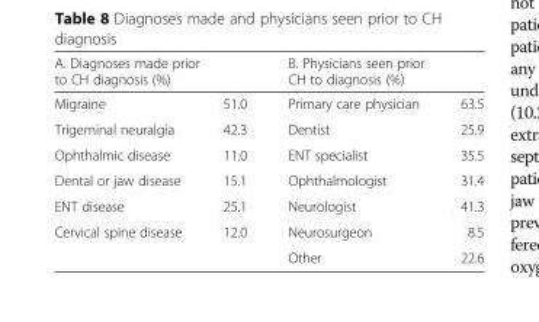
<table><thead><tr><td colspan="2">A. Diagnoses made prior to CH diagnosis (%)</td><td colspan="2">B. Physicians seen prior CH to diagnosis (%)</td></tr><tr><td>Migraine</td><td>51.0</td><td>Primary care physician</td><td>63.5</td></tr></thead><tbody><tr><td>Trigeminal neuralgia</td><td>42.3</td><td>Dentist</td><td>25.9</td></tr><tr><td>Ophthalmic disease</td><td>11.0</td><td>ENT specialist</td><td>35.5</td></tr><tr><td>Dental or jaw disease</td><td>15.1</td><td>Ophthalmologist</td><td>31.4</td></tr><tr><td>ENT disease</td><td>25.1</td><td>Neurologist</td><td>41.3</td></tr><tr><td rowspan="2">Cervical spine disease</td><td>12.0</td><td>Neurosurgeon</td><td>8.5</td></tr><tr><td></td><td>Other</td><td>22.6</td></tr></tbody></table>